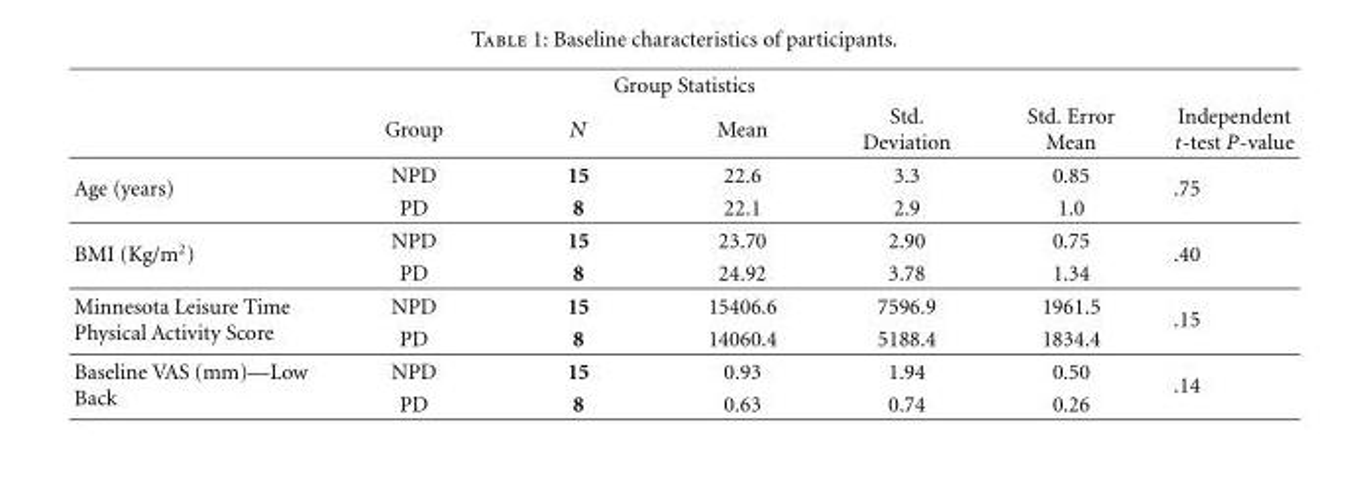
<table><thead><tr><td colspan="7">Group Statistics</td></tr><tr><td></td><td>Group</td><td>N</td><td>Mean</td><td>Std. Deviation</td><td>Std. Error Mean</td><td>Independent t-test P-value</td></tr></thead><tbody><tr><td rowspan="2">Age (years)</td><td>NPD</td><td>15</td><td>22.6</td><td>3.3</td><td>0.85</td><td rowspan="2">.75</td></tr><tr><td>PD</td><td>8</td><td>22.1</td><td>2.9</td><td>1.0</td></tr><tr><td rowspan="2">BMI (Kg/m<sup>2</sup>)</td><td>NPD</td><td>15</td><td>23.70</td><td>2.90</td><td>0.75</td><td rowspan="2">.40</td></tr><tr><td>PD</td><td>8</td><td>24.92</td><td>3.78</td><td>1.34</td></tr><tr><td rowspan="2">Minnesota Leisure Time Physical Activity Score</td><td>NPD</td><td>15</td><td>15406.6</td><td>7596.9</td><td>1961.5</td><td rowspan="2">.15</td></tr><tr><td>PD</td><td>8</td><td>14060.4</td><td>5188.4</td><td>1834.4</td></tr><tr><td rowspan="2">Baseline VAS (mm)—Low Back</td><td>NPD</td><td>15</td><td>0.93</td><td>1.94</td><td>0.50</td><td rowspan="2">.14</td></tr><tr><td>PD</td><td>8</td><td>0.63</td><td>0.74</td><td>0.26</td></tr></tbody></table>